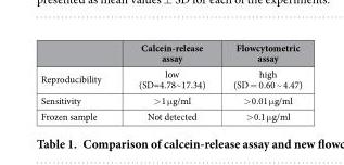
<table><thead><tr><td></td><td>Calcein-release assay</td><td>Flowcytometric assay</td></tr></thead><tbody><tr><td>Reproducibility</td><td>low (SD=4.78~17.34)</td><td>high (SD = 0.60 ~ 4.47)</td></tr><tr><td>Sensitivity</td><td>&gt; 1 μ g/ml</td><td>&gt; 0.01 μ g/ml</td></tr><tr><td>Frozen sample</td><td>Not detected</td><td>&gt; 0.1 μ g/ml</td></tr></tbody></table>